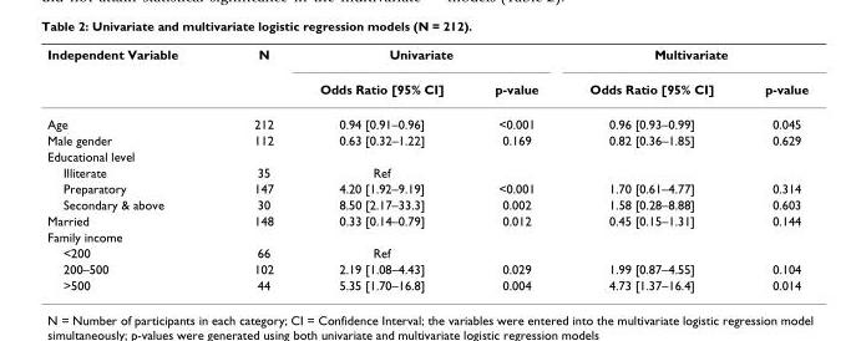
<table><thead><tr><td rowspan="2">Independent Variable</td><td rowspan="2">N</td><td colspan="2">Univariate</td><td colspan="2">Multivariate</td></tr><tr><td>Odds Ratio [95% CI]</td><td>p-value</td><td>Odds Ratio [95% CI]</td><td>p-value</td></tr></thead><tbody><tr><td>Age</td><td>212</td><td>0.94 [0.91–0.96]</td><td>&lt;0.001</td><td>0.96 [0.93–0.99]</td><td>0.045</td></tr><tr><td>Male gender</td><td>112</td><td>0.63 [0.32–1.22]</td><td>0.169</td><td>0.82 [0.36–1.85]</td><td>0.629</td></tr><tr><td colspan="6">Educational level</td></tr><tr><td>Illiterate</td><td>35</td><td>Ref</td><td></td><td></td><td></td></tr><tr><td>Preparatory</td><td>147</td><td>4.20 [1.92–9.19]</td><td>&lt;0.001</td><td>1.70 [0.61–4.77]</td><td>0.314</td></tr><tr><td>Secondary &amp; above</td><td>30</td><td>8.50 [2.17–33.3]</td><td>0.002</td><td>1.58 [0.28–8.88]</td><td>0.603</td></tr><tr><td>Married</td><td>148</td><td>0.33 [0.14–0.79]</td><td>0.012</td><td>0.45 [0.15–1.31]</td><td>0.144</td></tr><tr><td colspan="6">Family income</td></tr><tr><td>&lt;200</td><td>66</td><td>Ref</td><td></td><td></td><td></td></tr><tr><td>200–500</td><td>102</td><td>2.19 [1.08–4.43]</td><td>0.029</td><td>1.99 [0.87–4.55]</td><td>0.104</td></tr><tr><td>&gt;500</td><td>44</td><td>5.35 [1.70–16.8]</td><td>0.004</td><td>4.73 [1.37–16.4]</td><td>0.014</td></tr></tbody></table>